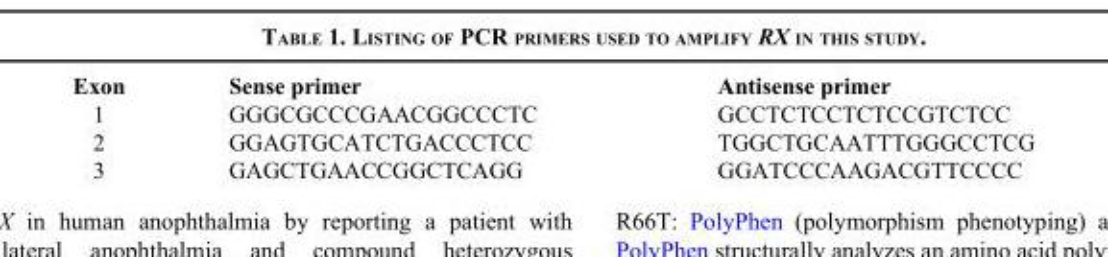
<table><thead><tr><td>Exon</td><td>Sense primer</td><td>Antisense primer</td></tr></thead><tbody><tr><td>1</td><td>GGGCGCCCGAACGGCCCTC</td><td>GCCTCTCCTCTCCGTCTCC</td></tr><tr><td>2</td><td>GGAGTGCATCTGACCCTCC</td><td>TGGCTGCAATTTGGGCCTCG</td></tr><tr><td>3</td><td>GAGCTGAACCGGCTCAGG</td><td>GGATCCCAAGACGTTCCCC</td></tr></tbody></table>